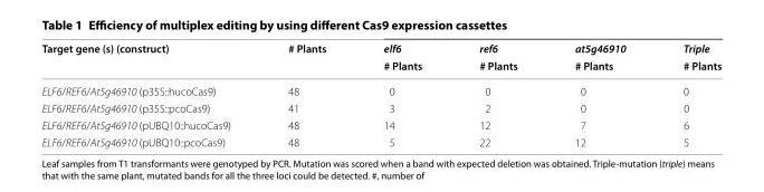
<table><thead><tr><td rowspan="2">Target gene (s) (construct)</td><td rowspan="2"># Plants</td><td rowspan="2">elf6 # Plants</td><td rowspan="2">ref6 # Plants</td><td rowspan="2">at5g46910 # Plants</td><td rowspan="2">Triple # Plants</td></tr><tr></tr></thead><tbody><tr><td>ELF6/REF6/At5g46910 (p35S::hucoCas9)</td><td>48</td><td>0</td><td>0</td><td>0</td><td>0</td></tr><tr><td>ELF6/REF6/At5g46910 (p35S::pcoCas9)</td><td>41</td><td>3</td><td>2</td><td>0</td><td>0</td></tr><tr><td>ELF6/REF6/At5g46910 (pUBQ10::hucoCas9)</td><td>48</td><td>14</td><td>12</td><td>7</td><td>6</td></tr><tr><td>ELF6/REF6/At5g46910 (pUBQ10::pcoCas9)</td><td>48</td><td>5</td><td>22</td><td>12</td><td>5</td></tr></tbody></table>